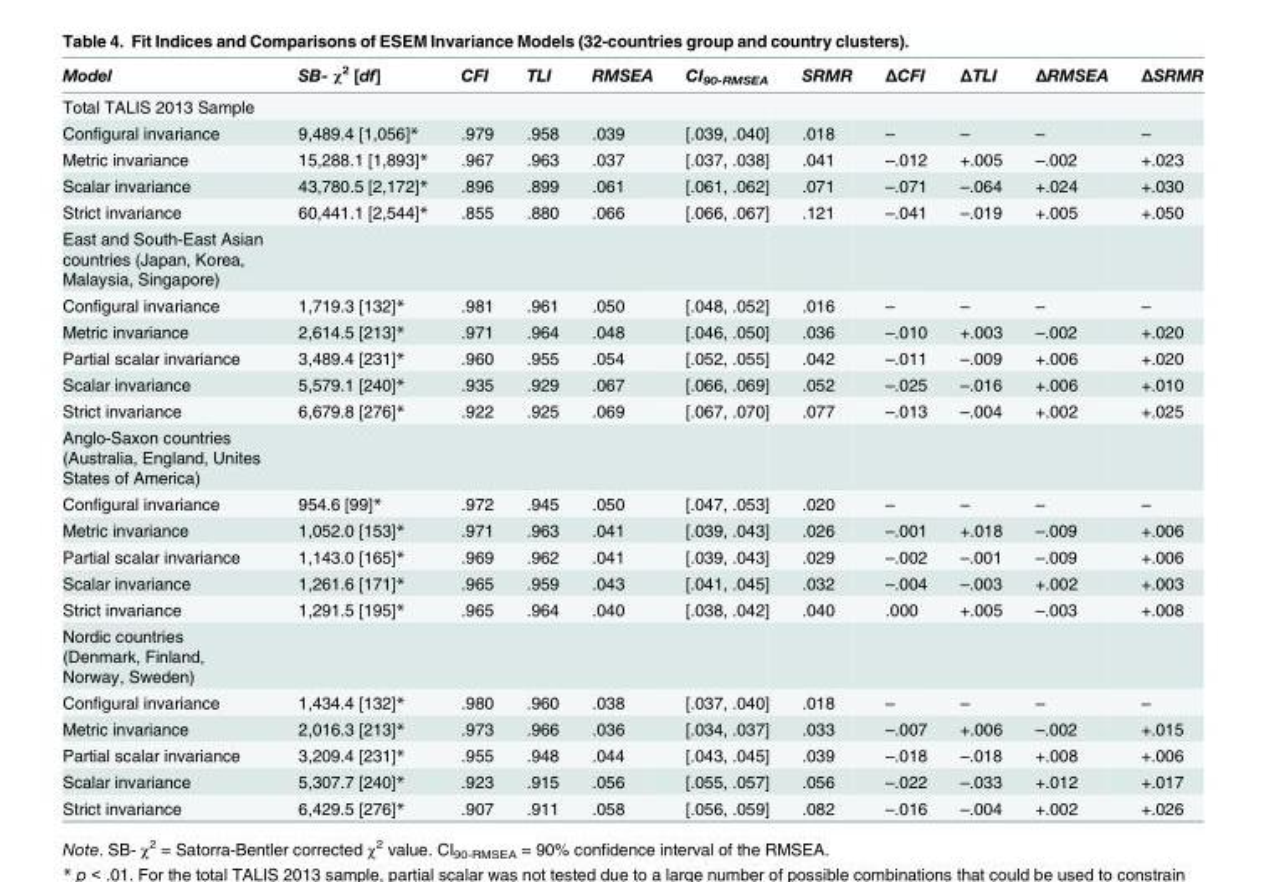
<table><thead><tr><td>Model</td><td>SB- χ<sup>2</sup> [df]</td><td>CFI</td><td>TLI</td><td>RMSEA</td><td>CI<sub>90-RMSEA</sub></td><td>SRMR</td><td>ΔCFI</td><td>ΔTLI</td><td>ΔRMSEA</td><td>ΔSRMR</td></tr></thead><tbody><tr><td colspan="11">Total TALIS 2013 Sample</td></tr><tr><td>Configural invariance</td><td>9,489.4 [1,056]*</td><td>.979</td><td>.958</td><td>.039</td><td>[.039, .040]</td><td>.018</td><td>–</td><td>–</td><td>–</td><td>–</td></tr><tr><td>Metric invariance</td><td>15,288.1 [1,893]*</td><td>.967</td><td>.963</td><td>.037</td><td>[.037, .038]</td><td>.041</td><td>–.012</td><td>+.005</td><td>–.002</td><td>+.023</td></tr><tr><td>Scalar invariance</td><td>43,780.5 [2,172]*</td><td>.896</td><td>.899</td><td>.061</td><td>[.061, .062]</td><td>.071</td><td>–.071</td><td>–.064</td><td>+.024</td><td>+.030</td></tr><tr><td>Strict invariance</td><td>60,441.1 [2,544]*</td><td>.855</td><td>.880</td><td>.066</td><td>[.066, .067]</td><td>.121</td><td>–.041</td><td>–.019</td><td>+.005</td><td>+.050</td></tr><tr><td colspan="11">East and South-East Asian countries (Japan, Korea, Malaysia, Singapore)</td></tr><tr><td>Configural invariance</td><td>1,719.3 [132]*</td><td>.981</td><td>.961</td><td>.050</td><td>[.048, .052]</td><td>.016</td><td>–</td><td>–</td><td>–</td><td>–</td></tr><tr><td>Metric invariance</td><td>2,614.5 [213]*</td><td>.971</td><td>.964</td><td>.048</td><td>[.046, .050]</td><td>.036</td><td>–.010</td><td>+.003</td><td>–.002</td><td>+.020</td></tr><tr><td>Partial scalar invariance</td><td>3,489.4 [231]*</td><td>.960</td><td>.955</td><td>.054</td><td>[.052, .055]</td><td>.042</td><td>–.011</td><td>–.009</td><td>+.006</td><td>+.020</td></tr><tr><td>Scalar invariance</td><td>5,579.1 [240]*</td><td>.935</td><td>.929</td><td>.067</td><td>[.066, .069]</td><td>.052</td><td>–.025</td><td>–.016</td><td>+.006</td><td>+.010</td></tr><tr><td>Strict invariance</td><td>6,679.8 [276]*</td><td>.922</td><td>.925</td><td>.069</td><td>[.067, .070]</td><td>.077</td><td>–.013</td><td>–.004</td><td>+.002</td><td>+.025</td></tr><tr><td colspan="11">Anglo-Saxon countries (Australia, England, Unites States of America)</td></tr><tr><td>Configural invariance</td><td>954.6 [99]*</td><td>.972</td><td>.945</td><td>.050</td><td>[.047, .053]</td><td>.020</td><td>–</td><td>–</td><td>–</td><td>–</td></tr><tr><td>Metric invariance</td><td>1,052.0 [153]*</td><td>.971</td><td>.963</td><td>.041</td><td>[.039, .043]</td><td>.026</td><td>–.001</td><td>+.018</td><td>–.009</td><td>+.006</td></tr><tr><td>Partial scalar invariance</td><td>1,143.0 [165]*</td><td>.969</td><td>.962</td><td>.041</td><td>[.039, .043]</td><td>.029</td><td>–.002</td><td>–.001</td><td>–.009</td><td>+.006</td></tr><tr><td>Scalar invariance</td><td>1,261.6 [171]*</td><td>.965</td><td>.959</td><td>.043</td><td>[.041, .045]</td><td>.032</td><td>–.004</td><td>–.003</td><td>+.002</td><td>+.003</td></tr><tr><td>Strict invariance</td><td>1,291.5 [195]*</td><td>.965</td><td>.964</td><td>.040</td><td>[.038, .042]</td><td>.040</td><td>.000</td><td>+.005</td><td>–.003</td><td>+.008</td></tr><tr><td colspan="11">Nordic countries (Denmark, Finland, Norway, Sweden)</td></tr><tr><td>Configural invariance</td><td>1,434.4 [132]*</td><td>.980</td><td>.960</td><td>.038</td><td>[.037, .040]</td><td>.018</td><td>–</td><td>–</td><td>–</td><td>–</td></tr><tr><td>Metric invariance</td><td>2,016.3 [213]*</td><td>.973</td><td>.966</td><td>.036</td><td>[.034, .037]</td><td>.033</td><td>–.007</td><td>+.006</td><td>–.002</td><td>+.015</td></tr><tr><td>Partial scalar invariance</td><td>3,209.4 [231]*</td><td>.955</td><td>.948</td><td>.044</td><td>[.043, .045]</td><td>.039</td><td>–.018</td><td>–.018</td><td>+.008</td><td>+.006</td></tr><tr><td>Scalar invariance</td><td>5,307.7 [240]*</td><td>.923</td><td>.915</td><td>.056</td><td>[.055, .057]</td><td>.056</td><td>–.022</td><td>–.033</td><td>+.012</td><td>+.017</td></tr><tr><td>Strict invariance</td><td>6,429.5 [276]*</td><td>.907</td><td>.911</td><td>.058</td><td>[.056, .059]</td><td>.082</td><td>–.016</td><td>–.004</td><td>+.002</td><td>+.026</td></tr></tbody></table>